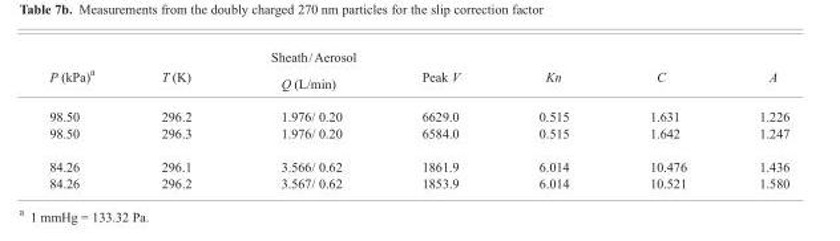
<table><thead><tr><td rowspan="2">P (kPa)<sup>a</sup></td><td rowspan="2">T (K)</td><td rowspan="2">Sheath/Aerosol Q (L/min)</td><td rowspan="2">Peak V</td><td rowspan="2">Kn</td><td rowspan="2">C</td><td rowspan="2">A</td></tr><tr></tr></thead><tbody><tr><td>98.50</td><td>296.2</td><td>1.976/ 0.20</td><td>6629.0</td><td>0.515</td><td>1.631</td><td>1.226</td></tr><tr><td>98.50</td><td>296.3</td><td>1.976/ 0.20</td><td>6584.0</td><td>0.515</td><td>1.642</td><td>1.247</td></tr><tr><td>84.26</td><td>296.1</td><td>3.566/ 0.62</td><td>1861.9</td><td>6.014</td><td>10.476</td><td>1.436</td></tr><tr><td>84.26</td><td>296.2</td><td>3.567/ 0.62</td><td>1853.9</td><td>6.014</td><td>10.521</td><td>1.580</td></tr></tbody></table>